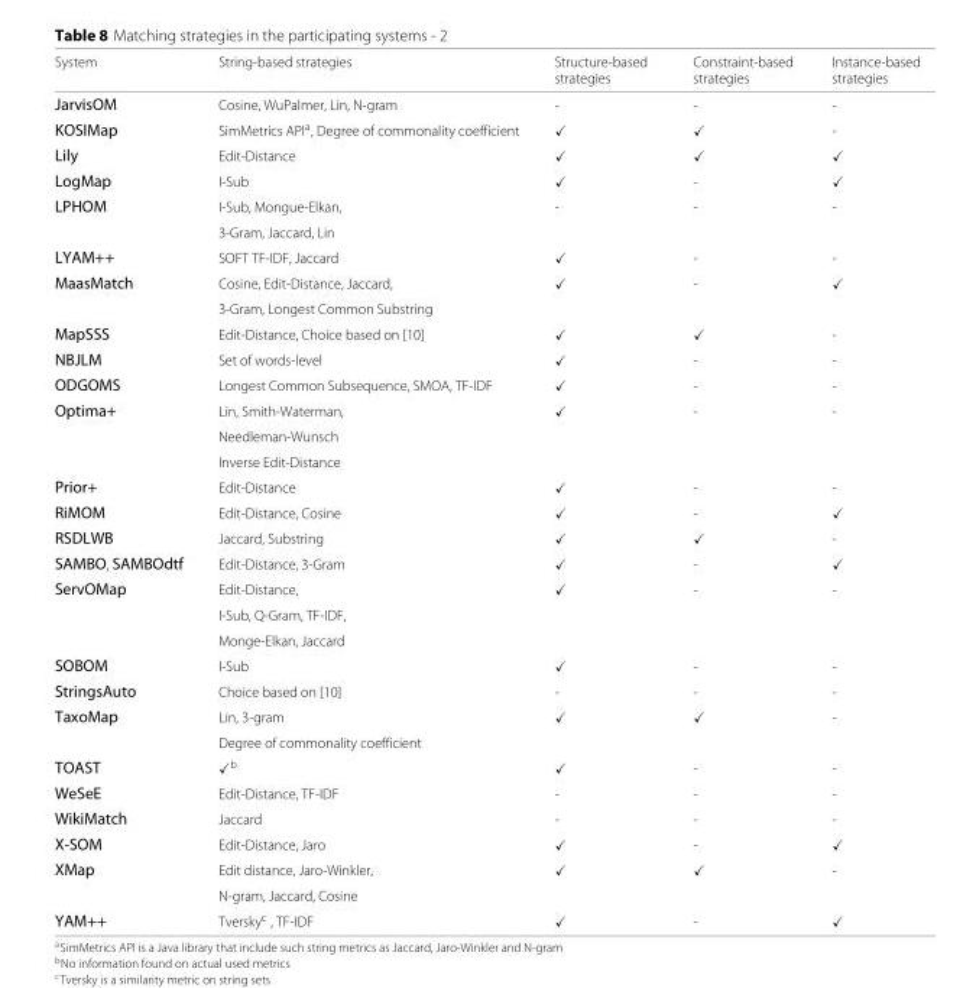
<table><thead><tr><td>System</td><td>String-based strategies</td><td>Structure-based strategies</td><td>Constraint-based strategies</td><td>Instance-based strategies</td></tr></thead><tbody><tr><td>JarvisOM</td><td>Cosine, WuPalmer, Lin, N-gram</td><td>-</td><td>-</td><td>-</td></tr><tr><td>KOSIMap</td><td>SimMetrics API<sup>a</sup>, Degree of commonality coefficient</td><td>✓</td><td>✓</td><td>-</td></tr><tr><td>Lily</td><td>Edit-Distance</td><td>✓</td><td>✓</td><td>✓</td></tr><tr><td>LogMap</td><td>I-Sub</td><td>✓</td><td>-</td><td>✓</td></tr><tr><td rowspan="2">LPHOM</td><td>I-Sub, Mongue-Elkan,</td><td>-</td><td>-</td><td>-</td></tr><tr><td>3-Gram, Jaccard, Lin</td><td></td><td></td><td></td></tr><tr><td>LYAM++</td><td>SOFT TF-IDF, Jaccard</td><td>✓</td><td>-</td><td>-</td></tr><tr><td rowspan="2">MaasMatch</td><td>Cosine, Edit-Distance, Jaccard,</td><td>✓</td><td>-</td><td>✓</td></tr><tr><td>3-Gram, Longest Common Substring</td><td></td><td></td><td></td></tr><tr><td>MapSSS</td><td>Edit-Distance, Choice based on [10]</td><td>✓</td><td>✓</td><td>-</td></tr><tr><td>NBJLM</td><td>Set of words-level</td><td>✓</td><td>-</td><td>-</td></tr><tr><td>ODGOMS</td><td>Longest Common Subsequence, SMOA, TF-IDF</td><td>✓</td><td>-</td><td>-</td></tr><tr><td rowspan="3">Optima+</td><td>Lin, Smith-Waterman,</td><td>✓</td><td>-</td><td>-</td></tr><tr><td>Needleman-Wunsch</td><td></td><td></td><td></td></tr><tr><td>Inverse Edit-Distance</td><td></td><td></td><td></td></tr><tr><td>Prior+</td><td>Edit-Distance</td><td>✓</td><td>-</td><td>-</td></tr><tr><td>RiMOM</td><td>Edit-Distance, Cosine</td><td>✓</td><td>-</td><td>✓</td></tr><tr><td>RSDLWB</td><td>Jaccard, Substring</td><td>✓</td><td>✓</td><td>-</td></tr><tr><td>SAMBO, SAMBOdtf</td><td>Edit-Distance, 3-Gram</td><td>✓</td><td>-</td><td>✓</td></tr><tr><td rowspan="3">ServOMap</td><td>Edit-Distance,</td><td>✓</td><td>-</td><td>-</td></tr><tr><td>I-Sub, Q-Gram, TF-IDF,</td><td></td><td></td><td></td></tr><tr><td>Monge-Elkan, Jaccard</td><td></td><td></td><td></td></tr><tr><td>SOBOM</td><td>I-Sub</td><td>✓</td><td>-</td><td>-</td></tr><tr><td>StringsAuto</td><td>Choice based on [10]</td><td>-</td><td>-</td><td>-</td></tr><tr><td rowspan="2">TaxoMap</td><td>Lin, 3-gram</td><td>✓</td><td>✓</td><td>-</td></tr><tr><td>Degree of commonality coefficient</td><td></td><td></td><td></td></tr><tr><td>TOAST</td><td>✓<sup>b</sup></td><td>✓</td><td>-</td><td>-</td></tr><tr><td>WeSeE</td><td>Edit-Distance, TF-IDF</td><td>-</td><td>-</td><td>-</td></tr><tr><td>WikiMatch</td><td>Jaccard</td><td>-</td><td>-</td><td>-</td></tr><tr><td>X-SOM</td><td>Edit-Distance, Jaro</td><td>✓</td><td>-</td><td>✓</td></tr><tr><td rowspan="2">XMap</td><td>Edit distance, Jaro-Winkler,</td><td>✓</td><td>✓</td><td>-</td></tr><tr><td>N-gram, Jaccard, Cosine</td><td></td><td></td><td></td></tr><tr><td>YAM++</td><td>Tversky<sup>c</sup> , TF-IDF</td><td>✓</td><td>-</td><td>✓</td></tr></tbody></table>